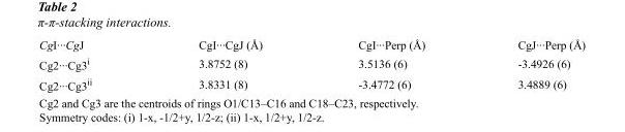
<table><tbody><tr><td>CgI···CgJ</td><td>CgI···CgJ (Å)</td><td>CgI···Perp (Å)</td><td>CgJ···Perp (Å)</td></tr><tr><td>Cg2···Cg3<sup>i</sup></td><td>3.8752 (8)</td><td>3.5136 (6)</td><td>-3.4926 (6)</td></tr><tr><td>Cg2···Cg3<sup>ii</sup></td><td>3.8331 (8)</td><td>-3.4772 (6)</td><td>3.4889 (6)</td></tr></tbody></table>